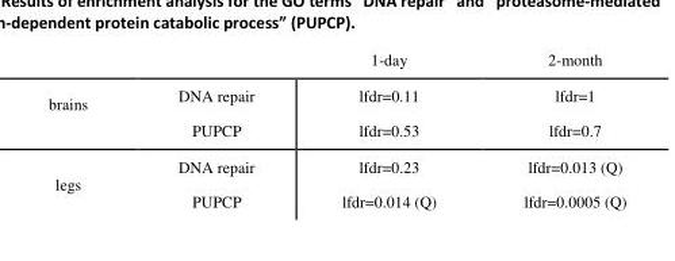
<table><thead><tr><td></td><td></td><td>1-day</td><td>2-month</td></tr></thead><tbody><tr><td rowspan="2">brains</td><td>DNA repair</td><td>lfdr=0.11</td><td>lfdr=1</td></tr><tr><td>PUPCP</td><td>lfdr=0.53</td><td>lfdr=0.7</td></tr><tr><td rowspan="2">legs</td><td>DNA repair</td><td>lfdr=0.23</td><td>lfdr=0.013 (Q)</td></tr><tr><td>PUPCP</td><td>lfdr=0.014 (Q)</td><td>lfdr=0.0005 (Q)</td></tr></tbody></table>